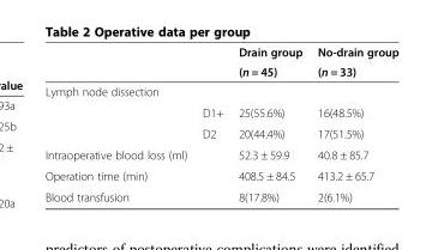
<table><thead><tr><td rowspan="2"></td><td rowspan="2"></td><td rowspan="2">Drain group (n = 45)</td><td rowspan="2">No-drain group (n = 33)</td></tr><tr></tr></thead><tbody><tr><td colspan="4">Lymph node dissection</td></tr><tr><td></td><td>D1+</td><td>25(55.6%)</td><td>16(48.5%)</td></tr><tr><td></td><td>D2</td><td>20(44.4%)</td><td>17(51.5%)</td></tr><tr><td>Intraoperative blood loss (ml)</td><td></td><td>52.3 ± 59.9</td><td>40.8 ± 85.7</td></tr><tr><td>Operation time (min)</td><td></td><td>408.5 ± 84.5</td><td>413.2 ± 65.7</td></tr><tr><td>Blood transfusion</td><td></td><td>8(17.8%)</td><td>2(6.1%)</td></tr></tbody></table>